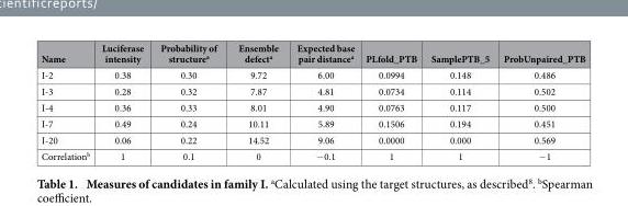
<table><thead><tr><td>Name</td><td>Luciferase intensity</td><td>Probability of structure<sup>a</sup></td><td>Ensemble defect<sup>a</sup></td><td>Expected base pair distance<sup>a</sup></td><td>PLfold_PTB</td><td>SamplePTB_5</td><td>ProbUnpaired_PTB</td></tr></thead><tbody><tr><td>I-2</td><td>0.38</td><td>0.30</td><td>9.72</td><td>6.00</td><td>0.0994</td><td>0.148</td><td>0.486</td></tr><tr><td>I-3</td><td>0.28</td><td>0.32</td><td>7.87</td><td>4.81</td><td>0.0734</td><td>0.114</td><td>0.502</td></tr><tr><td>I-4</td><td>0.36</td><td>0.33</td><td>8.01</td><td>4.90</td><td>0.0763</td><td>0.117</td><td>0.500</td></tr><tr><td>I-7</td><td>0.49</td><td>0.24</td><td>10.11</td><td>5.89</td><td>0.1506</td><td>0.194</td><td>0.451</td></tr><tr><td>I-20</td><td>0.06</td><td>0.22</td><td>14.52</td><td>9.06</td><td>0.0000</td><td>0.000</td><td>0.569</td></tr><tr><td>Correlation<sup>b</sup></td><td>1</td><td>0.1</td><td>0</td><td>−0.1</td><td>1</td><td>1</td><td>−1</td></tr></tbody></table>